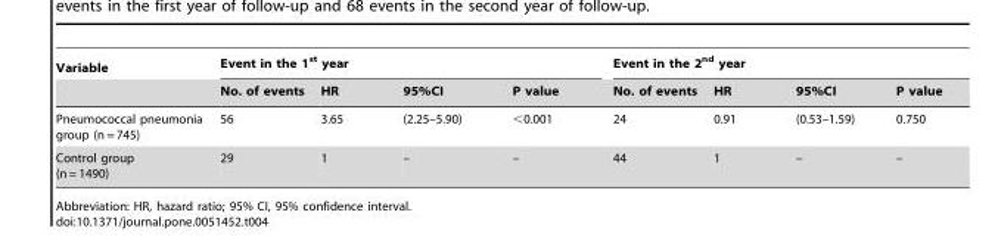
<table><thead><tr><td rowspan="2">Variable</td><td colspan="4">Event in the 1<sup>st</sup> year</td><td colspan="4">Event in the 2<sup>nd</sup> year</td></tr><tr><td>No. of events</td><td>HR</td><td>95%CI</td><td>P value</td><td>No. of events</td><td>HR</td><td>95%CI</td><td>P value</td></tr></thead><tbody><tr><td>Pneumococcal pneumonia group (n = 745)</td><td>56</td><td>3.65</td><td>(2.25–5.90)</td><td>&lt;0.001</td><td>24</td><td>0.91</td><td>(0.53–1.59)</td><td>0.750</td></tr><tr><td>Control group (n = 1490)</td><td>29</td><td>1</td><td>–</td><td>–</td><td>44</td><td>1</td><td>–</td><td>–</td></tr></tbody></table>